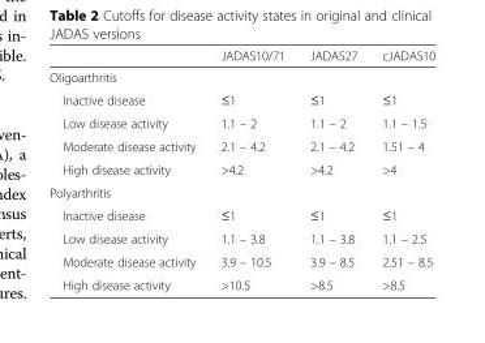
<table><thead><tr><td></td><td>JADAS10/71</td><td>JADAS27</td><td>cJADAS10</td></tr></thead><tbody><tr><td colspan="4">Oligoarthritis</td></tr><tr><td>Inactive disease</td><td>≤1</td><td>≤1</td><td>≤1</td></tr><tr><td>Low disease activity</td><td>1.1 – 2</td><td>1.1 – 2</td><td>1.1 – 1.5</td></tr><tr><td>Moderate disease activity</td><td>2.1 – 4.2</td><td>2.1 – 4.2</td><td>1.51 – 4</td></tr><tr><td>High disease activity</td><td>&gt;4.2</td><td>&gt;4.2</td><td>&gt;4</td></tr><tr><td colspan="4">Polyarthritis</td></tr><tr><td>Inactive disease</td><td>≤1</td><td>≤1</td><td>≤1</td></tr><tr><td>Low disease activity</td><td>1.1 – 3.8</td><td>1.1 – 3.8</td><td>1.1 – 2.5</td></tr><tr><td>Moderate disease activity</td><td>3.9 – 10.5</td><td>3.9 – 8.5</td><td>2.51 – 8.5</td></tr><tr><td>High disease activity</td><td>&gt;10.5</td><td>&gt;8.5</td><td>&gt;8.5</td></tr></tbody></table>